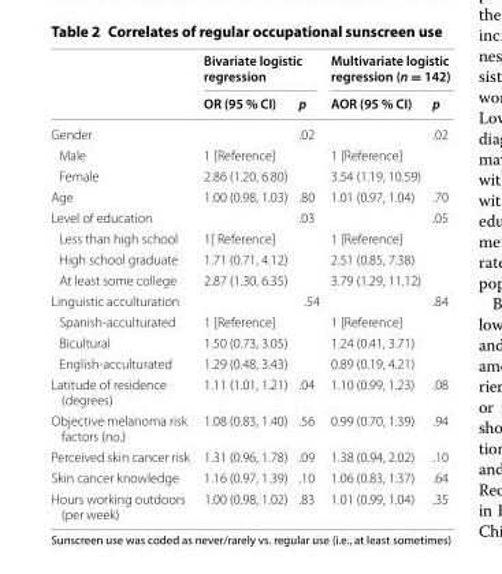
<table><thead><tr><td rowspan="2"></td><td colspan="2">Bivariate logistic regression</td><td colspan="2">Multivariate logistic regression (n = 142)</td></tr><tr><td>OR (95 % CI)</td><td>p</td><td>AOR (95 % CI)</td><td>p</td></tr></thead><tbody><tr><td>Gender</td><td></td><td>.02</td><td></td><td>.02</td></tr><tr><td>Male</td><td>1 [Reference]</td><td></td><td>1 [Reference]</td><td></td></tr><tr><td>Female</td><td>2.86 (1.20, 6.80)</td><td></td><td>3.54 (1.19, 10.59)</td><td></td></tr><tr><td>Age</td><td>1.00 (0.98, 1.03)</td><td>.80</td><td>1.01 (0.97, 1.04)</td><td>.70</td></tr><tr><td>Level of education</td><td></td><td>.03</td><td></td><td>.05</td></tr><tr><td>Less than high school</td><td>1[ Reference]</td><td></td><td>1 [Reference]</td><td></td></tr><tr><td>High school graduate</td><td>1.71 (0.71, 4.12)</td><td></td><td>2.51 (0.85, 7.38)</td><td></td></tr><tr><td>At least some college</td><td>2.87 (1.30, 6.35)</td><td></td><td>3.79 (1.29, 11.12)</td><td></td></tr><tr><td>Linguistic acculturation</td><td></td><td>.54</td><td></td><td>.84</td></tr><tr><td>Spanish‑acculturated</td><td>1 [Reference]</td><td></td><td>1 [Reference]</td><td></td></tr><tr><td>Bicultural</td><td>1.50 (0.73, 3.05)</td><td></td><td>1.24 (0.41, 3.71)</td><td></td></tr><tr><td>English‑acculturated</td><td>1.29 (0.48, 3.43)</td><td></td><td>0.89 (0.19, 4.21)</td><td></td></tr><tr><td>Latitude of residence (degrees)</td><td>1.11 (1.01, 1.21)</td><td>.04</td><td>1.10 (0.99, 1.23)</td><td>.08</td></tr><tr><td>Objective melanoma risk factors (no.)</td><td>1.08 (0.83, 1.40)</td><td>.56</td><td>0.99 (0.70, 1.39)</td><td>.94</td></tr><tr><td>Perceived skin cancer risk</td><td>1.31 (0.96, 1.78)</td><td>.09</td><td>1.38 (0.94, 2.02)</td><td>.10</td></tr><tr><td>Skin cancer knowledge</td><td>1.16 (0.97, 1.39)</td><td>.10</td><td>1.06 (0.83, 1.37)</td><td>.64</td></tr><tr><td>Hours working outdoors (per week)</td><td>1.00 (0.98, 1.02)</td><td>.83</td><td>1.01 (0.99, 1.04)</td><td>.35</td></tr></tbody></table>